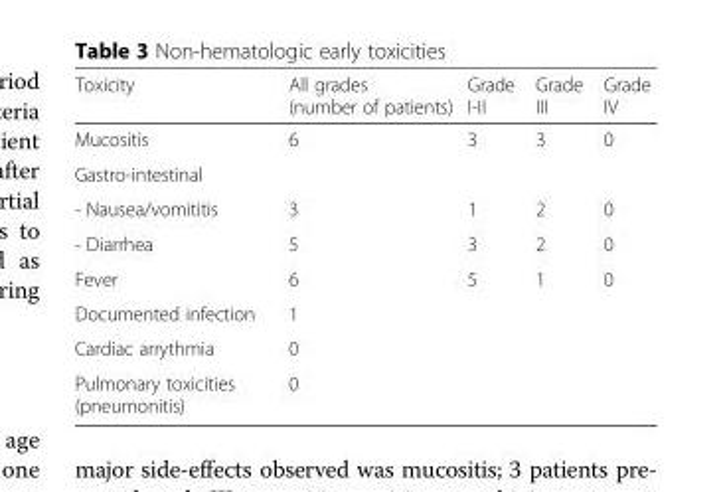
<table><thead><tr><td>Toxicity</td><td>All grades (number of patients)</td><td>Grade I-II</td><td>Grade III</td><td>Grade IV</td></tr></thead><tbody><tr><td>Mucositis</td><td>6</td><td>3</td><td>3</td><td>0</td></tr><tr><td colspan="5">Gastro-intestinal</td></tr><tr><td>- Nausea/vomititis</td><td>3</td><td>1</td><td>2</td><td>0</td></tr><tr><td>- Diarrhea</td><td>5</td><td>3</td><td>2</td><td>0</td></tr><tr><td>Fever</td><td>6</td><td>5</td><td>1</td><td>0</td></tr><tr><td>Documented infection</td><td>1</td><td></td><td></td><td></td></tr><tr><td>Cardiac arrythmia</td><td>0</td><td></td><td></td><td></td></tr><tr><td>Pulmonary toxicities (pneumonitis)</td><td>0</td><td></td><td></td><td></td></tr></tbody></table>